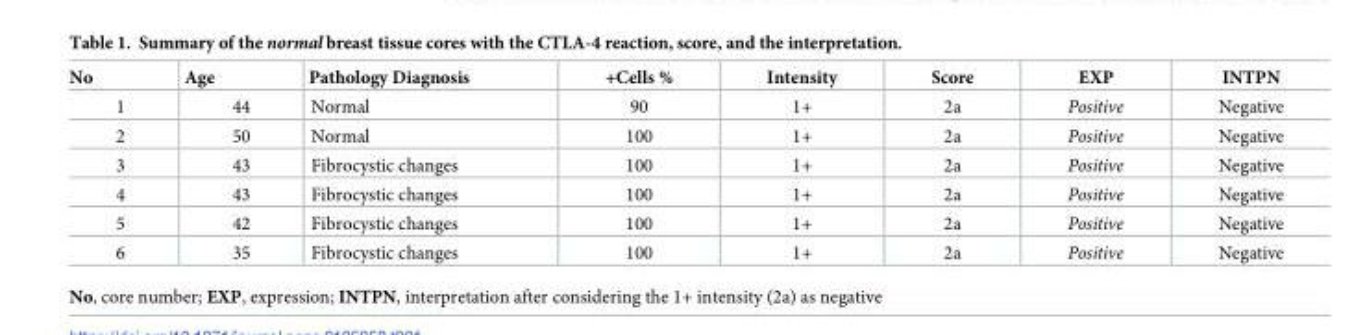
<table><thead><tr><td>No</td><td>Age</td><td>Pathology Diagnosis</td><td>+Cells %</td><td>Intensity</td><td>Score</td><td>EXP</td><td>INTPN</td></tr></thead><tbody><tr><td>1</td><td>44</td><td>Normal</td><td>90</td><td>1+</td><td>2a</td><td>Positive</td><td>Negative</td></tr><tr><td>2</td><td>50</td><td>Normal</td><td>100</td><td>1+</td><td>2a</td><td>Positive</td><td>Negative</td></tr><tr><td>3</td><td>43</td><td>Fibrocystic changes</td><td>100</td><td>1+</td><td>2a</td><td>Positive</td><td>Negative</td></tr><tr><td>4</td><td>43</td><td>Fibrocystic changes</td><td>100</td><td>1+</td><td>2a</td><td>Positive</td><td>Negative</td></tr><tr><td>5</td><td>42</td><td>Fibrocystic changes</td><td>100</td><td>1+</td><td>2a</td><td>Positive</td><td>Negative</td></tr><tr><td>6</td><td>35</td><td>Fibrocystic changes</td><td>100</td><td>1+</td><td>2a</td><td>Positive</td><td>Negative</td></tr></tbody></table>